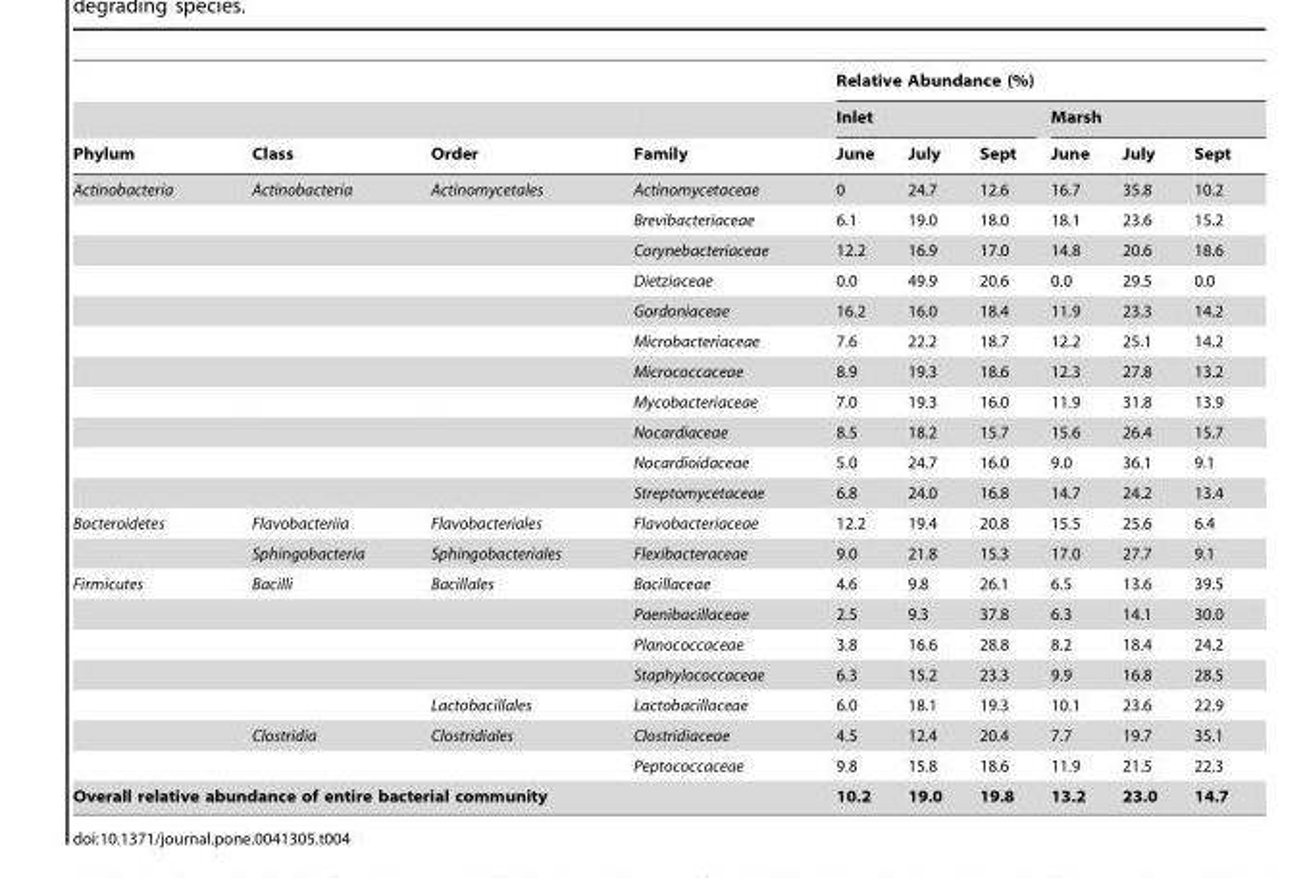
<table><thead><tr><td rowspan="3">Phylum</td><td rowspan="3">Class</td><td rowspan="3">Order</td><td rowspan="3">Family</td><td colspan="6">Relative Abundance (%)</td></tr><tr><td colspan="3">Inlet</td><td colspan="3">Marsh</td></tr><tr><td>June</td><td>July</td><td>Sept</td><td>June</td><td>July</td><td>Sept</td></tr></thead><tbody><tr><td rowspan="11">Actinobacteria</td><td>Actinobacteria</td><td>Actinomycetales</td><td>Actinomycetaceae</td><td>0</td><td>24.7</td><td>12.6</td><td>16.7</td><td>35.8</td><td>10.2</td></tr><tr><td></td><td></td><td>Brevibacteriaceae</td><td>6.1</td><td>19.0</td><td>18.0</td><td>18.1</td><td>23.6</td><td>15.2</td></tr><tr><td></td><td></td><td>Corynebacteriaceae</td><td>12.2</td><td>16.9</td><td>17.0</td><td>14.8</td><td>20.6</td><td>18.6</td></tr><tr><td></td><td></td><td>Dietziaceae</td><td>0.0</td><td>49.9</td><td>20.6</td><td>0.0</td><td>29.5</td><td>0.0</td></tr><tr><td></td><td></td><td>Gordoniaceae</td><td>16.2</td><td>16.0</td><td>18.4</td><td>11.9</td><td>23.3</td><td>14.2</td></tr><tr><td></td><td></td><td>Microbacteriaceae</td><td>7.6</td><td>22.2</td><td>18.7</td><td>12.2</td><td>25.1</td><td>14.2</td></tr><tr><td></td><td></td><td>Micrococcaceae</td><td>8.9</td><td>19.3</td><td>18.6</td><td>12.3</td><td>27.8</td><td>13.2</td></tr><tr><td></td><td></td><td>Mycobacteriaceae</td><td>7.0</td><td>19.3</td><td>16.0</td><td>11.9</td><td>31.8</td><td>13.9</td></tr><tr><td></td><td></td><td>Nocardiaceae</td><td>8.5</td><td>18.2</td><td>15.7</td><td>15.6</td><td>26.4</td><td>15.7</td></tr><tr><td></td><td></td><td>Nocardioidaceae</td><td>5.0</td><td>24.7</td><td>16.0</td><td>9.0</td><td>36.1</td><td>9.1</td></tr><tr><td></td><td></td><td>Streptomycetaceae</td><td>6.8</td><td>24.0</td><td>16.8</td><td>14.7</td><td>24.2</td><td>13.4</td></tr><tr><td rowspan="2">Bacteroidetes</td><td>Flavobacteriia</td><td>Flavobacteriales</td><td>Flavobacteriaceae</td><td>12.2</td><td>19.4</td><td>20.8</td><td>15.5</td><td>25.6</td><td>6.4</td></tr><tr><td>Sphingobacteria</td><td>Sphingobacteriales</td><td>Flexibacteraceae</td><td>9.0</td><td>21.8</td><td>15.3</td><td>17.0</td><td>27.7</td><td>9.1</td></tr><tr><td rowspan="7">Firmicutes</td><td>Bacilli</td><td>Bacillales</td><td>Bacillaceae</td><td>4.6</td><td>9.8</td><td>26.1</td><td>6.5</td><td>13.6</td><td>39.5</td></tr><tr><td></td><td></td><td>Paenibacillaceae</td><td>2.5</td><td>9.3</td><td>37.8</td><td>6.3</td><td>14.1</td><td>30.0</td></tr><tr><td></td><td></td><td>Planococcaceae</td><td>3.8</td><td>16.6</td><td>28.8</td><td>8.2</td><td>18.4</td><td>24.2</td></tr><tr><td></td><td></td><td>Staphylococcaceae</td><td>6.3</td><td>15.2</td><td>23.3</td><td>9.9</td><td>16.8</td><td>28.5</td></tr><tr><td></td><td>Lactobacillales</td><td>Lactobacillaceae</td><td>6.0</td><td>18.1</td><td>19.3</td><td>10.1</td><td>23.6</td><td>22.9</td></tr><tr><td>Clostridia</td><td>Clostridiales</td><td>Clostridiaceae</td><td>4.5</td><td>12.4</td><td>20.4</td><td>7.7</td><td>19.7</td><td>35.1</td></tr><tr><td></td><td></td><td>Peptococcaceae</td><td>9.8</td><td>15.8</td><td>18.6</td><td>11.9</td><td>21.5</td><td>22.3</td></tr><tr><td colspan="4">Overall relative abundance of entire bacterial community</td><td>10.2</td><td>19.0</td><td>19.8</td><td>13.2</td><td>23.0</td><td>14.7</td></tr></tbody></table>